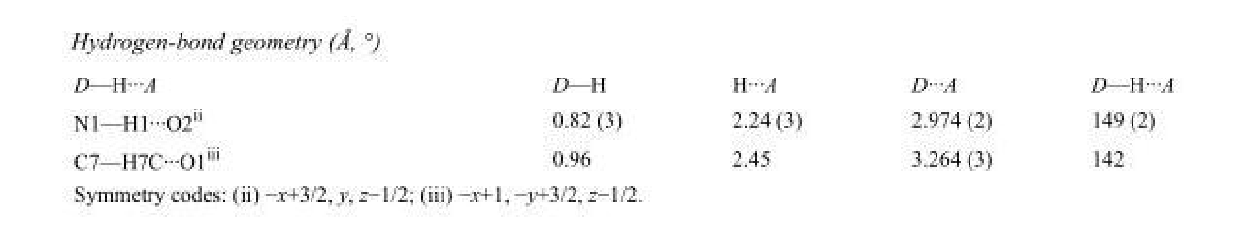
<table><tbody><tr><td>D—H···A</td><td>D—H</td><td>H···A</td><td>D···A</td><td>D—H···A</td></tr><tr><td>N1—H1···O2<sup>ii</sup></td><td>0.82 (3)</td><td>2.24 (3)</td><td>2.974 (2)</td><td>149 (2)</td></tr><tr><td>C7—H7C···O1<sup>iii</sup></td><td>0.96</td><td>2.45</td><td>3.264 (3)</td><td>142</td></tr></tbody></table>